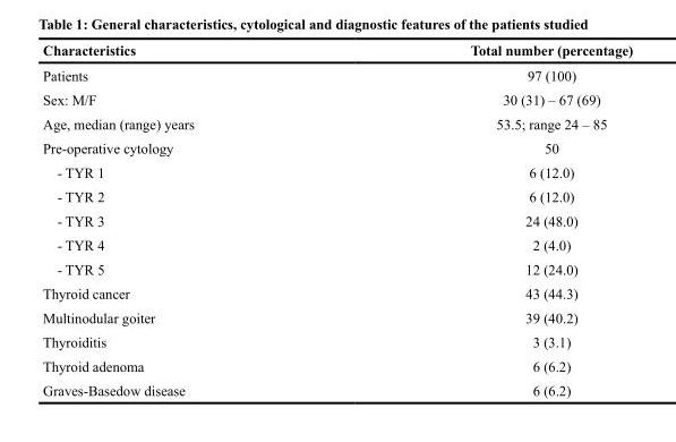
<table><thead><tr><td>Characteristics</td><td>Total number (percentage)</td></tr></thead><tbody><tr><td>Patients</td><td>97 (100)</td></tr><tr><td>Sex: M/F</td><td>30 (31) – 67 (69)</td></tr><tr><td>Age, median (range) years</td><td>53.5; range 24 – 85</td></tr><tr><td>Pre-operative cytology</td><td>50</td></tr><tr><td>- TYR 1</td><td>6 (12.0)</td></tr><tr><td>- TYR 2</td><td>6 (12.0)</td></tr><tr><td>- TYR 3</td><td>24 (48.0)</td></tr><tr><td>- TYR 4</td><td>2 (4.0)</td></tr><tr><td>- TYR 5</td><td>12 (24.0)</td></tr><tr><td>Thyroid cancer</td><td>43 (44.3)</td></tr><tr><td>Multinodular goiter</td><td>39 (40.2)</td></tr><tr><td>Thyroiditis</td><td>3 (3.1)</td></tr><tr><td>Thyroid adenoma</td><td>6 (6.2)</td></tr><tr><td>Graves-Basedow disease</td><td>6 (6.2)</td></tr></tbody></table>